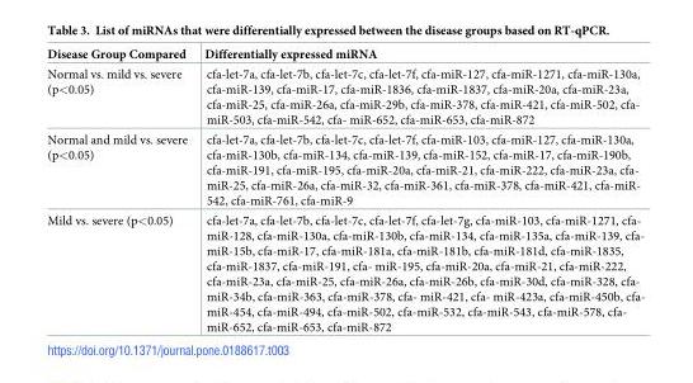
<table><thead><tr><td>Disease Group Compared</td><td>Differentially expressed miRNA</td></tr></thead><tbody><tr><td>Normal vs. mild vs. severe (p&lt;0.05)</td><td>cfa-let-7a, cfa-let-7b, cfa-let-7c, cfa-let-7f, cfa-miR-127, cfa-miR-1271, cfa-miR-130a, cfa-miR-139, cfa-miR-17, cfa-miR-1836, cfa-miR-1837, cfa-miR-20a, cfa-miR-23a, cfa-miR-25, cfa-miR-26a, cfa-miR-29b, cfa-miR-378, cfa-miR-421, cfa-miR-502, cfa- miR-503, cfa-miR-542, cfa- miR-652, cfa-miR-653, cfa-miR-872</td></tr><tr><td>Normal and mild vs. severe (p&lt;0.05)</td><td>cfa-let-7a, cfa-let-7b, cfa-let-7c, cfa-let-7f, cfa-miR-103, cfa-miR-127, cfa-miR-130a, cfa-miR-130b, cfa-miR-134, cfa-miR-139, cfa-miR-152, cfa-miR-17, cfa-miR-190b, cfa-miR-191, cfa-miR-195, cfa-miR-20a, cfa-miR-21, cfa-miR-222, cfa-miR-23a, cfa- miR-25, cfa-miR-26a, cfa-miR-32, cfa-miR-361, cfa-miR-378, cfa-miR-421, cfa-miR- 542, cfa-miR-761, cfa-miR-9</td></tr><tr><td>Mild vs. severe (p&lt;0.05)</td><td>cfa-let-7a, cfa-let-7b, cfa-let-7c, cfa-let-7f, cfa-let-7g, cfa-miR-103, cfa-miR-1271, cfa- miR-128, cfa-miR-130a, cfa-miR-130b, cfa-miR-134, cfa-miR-135a, cfa-miR-139, cfa- miR-15b, cfa-miR-17, cfa-miR-181a, cfa-miR-181b, cfa-miR-181d, cfa-miR-1835, cfa-miR-1837, cfa-miR-191, cfa- miR-195, cfa-miR-20a, cfa-miR-21, cfa-miR-222, cfa-miR-23a, cfa-miR-25, cfa-miR-26a, cfa-miR-26b, cfa-miR-30d, cfa-miR-328, cfa- miR-34b, cfa-miR-363, cfa-miR-378, cfa- miR-421, cfa- miR-423a, cfa-miR-450b, cfa- miR-454, cfa-miR-494, cfa-miR-502, cfa-miR-532, cfa-miR-543, cfa-miR-578, cfa- miR-652, cfa-miR-653, cfa-miR-872</td></tr></tbody></table>